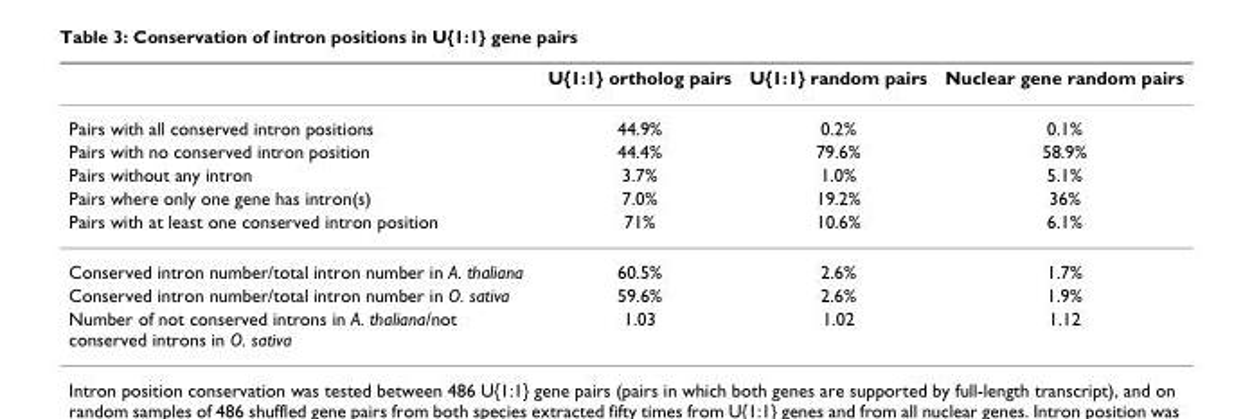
<table><thead><tr><td></td><td>U{1:1} ortholog pairs</td><td>U{1:1} random pairs</td><td>Nuclear gene random pairs</td></tr></thead><tbody><tr><td>Pairs with all conserved intron positions</td><td>44.9%</td><td>0.2%</td><td>0.1%</td></tr><tr><td>Pairs with no conserved intron position</td><td>44.4%</td><td>79.6%</td><td>58.9%</td></tr><tr><td>Pairs without any intron</td><td>3.7%</td><td>1.0%</td><td>5.1%</td></tr><tr><td>Pairs where only one gene has intron(s)</td><td>7.0%</td><td>19.2%</td><td>36%</td></tr><tr><td>Pairs with at least one conserved intron position</td><td>71%</td><td>10.6%</td><td>6.1%</td></tr><tr><td>Conserved intron number/total intron number in A. thaliana</td><td>60.5%</td><td>2.6%</td><td>1.7%</td></tr><tr><td>Conserved intron number/total intron number in O. sativa</td><td>59.6%</td><td>2.6%</td><td>1.9%</td></tr><tr><td>Number of not conserved introns in A. thaliana/not conserved introns in O. sativa</td><td>1.03</td><td>1.02</td><td>1.12</td></tr></tbody></table>